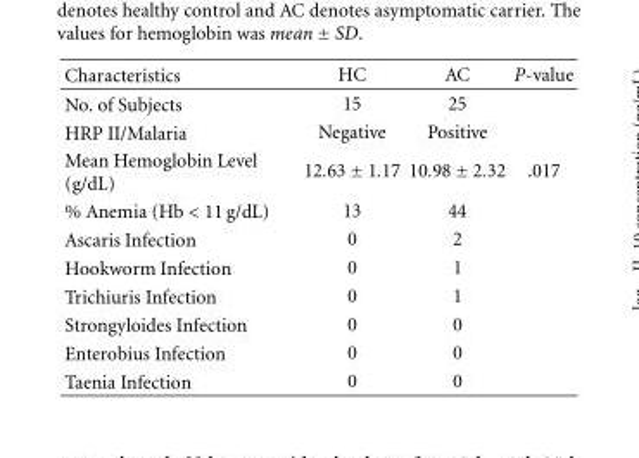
<table><thead><tr><td>Characteristics</td><td>HC</td><td>AC</td><td>P-value</td></tr></thead><tbody><tr><td>No. of Subjects</td><td>15</td><td>25</td><td></td></tr><tr><td>HRP II/Malaria</td><td>Negative</td><td>Positive</td><td></td></tr><tr><td>Mean Hemoglobin Level (g/dL)</td><td>12.63 ± 1.17</td><td>10.98 ± 2.32</td><td>.017</td></tr><tr><td>% Anemia (Hb &lt; 11 g/dL)</td><td>13</td><td>44</td><td></td></tr><tr><td>Ascaris Infection</td><td>0</td><td>2</td><td></td></tr><tr><td>Hookworm Infection</td><td>0</td><td>1</td><td></td></tr><tr><td>Trichiuris Infection</td><td>0</td><td>1</td><td></td></tr><tr><td>Strongyloides Infection</td><td>0</td><td>0</td><td></td></tr><tr><td>Enterobius Infection</td><td>0</td><td>0</td><td></td></tr><tr><td>Taenia Infection</td><td>0</td><td>0</td><td></td></tr></tbody></table>